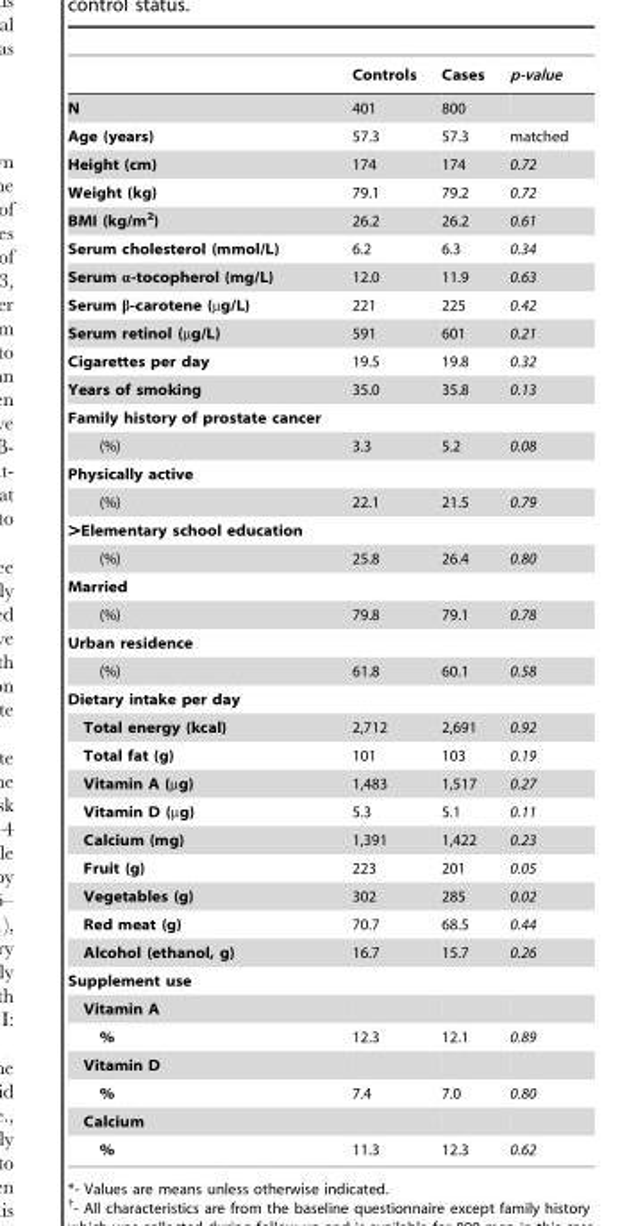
<table><thead><tr><td></td><td>Controls</td><td>Cases</td><td>p-value</td></tr></thead><tbody><tr><td>N</td><td>401</td><td>800</td><td></td></tr><tr><td>Age (years)</td><td>57.3</td><td>57.3</td><td>matched</td></tr><tr><td>Height (cm)</td><td>174</td><td>174</td><td>0.72</td></tr><tr><td>Weight (kg)</td><td>79.1</td><td>79.2</td><td>0.72</td></tr><tr><td>BMI (kg/m<sup>2</sup>)</td><td>26.2</td><td>26.2</td><td>0.61</td></tr><tr><td>Serum cholesterol (mmol/L)</td><td>6.2</td><td>6.3</td><td>0.34</td></tr><tr><td>Serum α-tocopherol (mg/L)</td><td>12.0</td><td>11.9</td><td>0.63</td></tr><tr><td>Serum β-carotene (µg/L)</td><td>221</td><td>225</td><td>0.42</td></tr><tr><td>Serum retinol (µg/L)</td><td>591</td><td>601</td><td>0.21</td></tr><tr><td>Cigarettes per day</td><td>19.5</td><td>19.8</td><td>0.32</td></tr><tr><td>Years of smoking</td><td>35.0</td><td>35.8</td><td>0.13</td></tr><tr><td colspan="4">Family history of prostate cancer</td></tr><tr><td>(%)</td><td>3.3</td><td>5.2</td><td>0.08</td></tr><tr><td colspan="4">Physically active</td></tr><tr><td>(%)</td><td>22.1</td><td>21.5</td><td>0.79</td></tr><tr><td colspan="4">&gt;Elementary school education</td></tr><tr><td>(%)</td><td>25.8</td><td>26.4</td><td>0.80</td></tr><tr><td colspan="4">Married</td></tr><tr><td>(%)</td><td>79.8</td><td>79.1</td><td>0.78</td></tr><tr><td colspan="4">Urban residence</td></tr><tr><td>(%)</td><td>61.8</td><td>60.1</td><td>0.58</td></tr><tr><td colspan="4">Dietary intake per day</td></tr><tr><td>Total energy (kcal)</td><td>2,712</td><td>2,691</td><td>0.92</td></tr><tr><td>Total fat (g)</td><td>101</td><td>103</td><td>0.19</td></tr><tr><td>Vitamin A (µg)</td><td>1,483</td><td>1,517</td><td>0.27</td></tr><tr><td>Vitamin D (µg)</td><td>5.3</td><td>5.1</td><td>0.11</td></tr><tr><td>Calcium (mg)</td><td>1,391</td><td>1,422</td><td>0.23</td></tr><tr><td>Fruit (g)</td><td>223</td><td>201</td><td>0.05</td></tr><tr><td>Vegetables (g)</td><td>302</td><td>285</td><td>0.02</td></tr><tr><td>Red meat (g)</td><td>70.7</td><td>68.5</td><td>0.44</td></tr><tr><td>Alcohol (ethanol, g)</td><td>16.7</td><td>15.7</td><td>0.26</td></tr><tr><td colspan="4">Supplement use</td></tr><tr><td colspan="4">Vitamin A</td></tr><tr><td>%</td><td>12.3</td><td>12.1</td><td>0.89</td></tr><tr><td colspan="4">Vitamin D</td></tr><tr><td>%</td><td>7.4</td><td>7.0</td><td>0.80</td></tr><tr><td colspan="4">Calcium</td></tr><tr><td>%</td><td>11.3</td><td>12.3</td><td>0.62</td></tr></tbody></table>